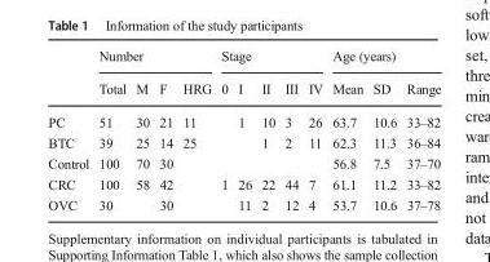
<table><thead><tr><td rowspan="2"></td><td colspan="4">Number</td><td colspan="5">Stage</td><td colspan="3">Age (years)</td></tr><tr><td>Total</td><td>M</td><td>F</td><td>HRG</td><td>0</td><td>I</td><td>II</td><td>III</td><td>IV</td><td>Mean</td><td>SD</td><td>Range</td></tr></thead><tbody><tr><td>PC</td><td>51</td><td>30</td><td>21</td><td>11</td><td></td><td>1</td><td>10</td><td>3</td><td>26</td><td>63.7</td><td>10.6</td><td>33–82</td></tr><tr><td>BTC</td><td>39</td><td>25</td><td>14</td><td>25</td><td></td><td></td><td>1</td><td>2</td><td>11</td><td>62.3</td><td>11.3</td><td>36–84</td></tr><tr><td>Control</td><td>100</td><td>70</td><td>30</td><td></td><td></td><td></td><td></td><td></td><td></td><td>56.8</td><td>7.5</td><td>37–70</td></tr><tr><td>CRC</td><td>100</td><td>58</td><td>42</td><td></td><td>1</td><td>26</td><td>22</td><td>44</td><td>7</td><td>61.1</td><td>11.2</td><td>33–82</td></tr><tr><td>OVC</td><td>30</td><td></td><td>30</td><td></td><td></td><td>11</td><td>2</td><td>12</td><td>4</td><td>53.7</td><td>10.6</td><td>37–78</td></tr></tbody></table>